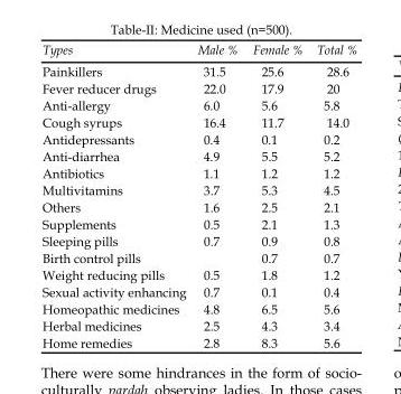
<table><thead><tr><td>Types</td><td>Male %</td><td>Female %</td><td>Total %</td></tr></thead><tbody><tr><td>Painkillers</td><td>31.5</td><td>25.6</td><td>28.6</td></tr><tr><td>Fever reducer drugs</td><td>22.0</td><td>17.9</td><td>20</td></tr><tr><td>Anti-allergy</td><td>6.0</td><td>5.6</td><td>5.8</td></tr><tr><td>Cough syrups</td><td>16.4</td><td>11.7</td><td>14.0</td></tr><tr><td>Antidepressants</td><td>0.4</td><td>0.1</td><td>0.2</td></tr><tr><td>Anti-diarrhea</td><td>4.9</td><td>5.5</td><td>5.2</td></tr><tr><td>Antibiotics</td><td>1.1</td><td>1.2</td><td>1.2</td></tr><tr><td>Multivitamins</td><td>3.7</td><td>5.3</td><td>4.5</td></tr><tr><td>Others</td><td>1.6</td><td>2.5</td><td>2.1</td></tr><tr><td>Supplements</td><td>0.5</td><td>2.1</td><td>1.3</td></tr><tr><td>Sleeping pills</td><td>0.7</td><td>0.9</td><td>0.8</td></tr><tr><td>Birth control pills</td><td></td><td>0.7</td><td>0.7</td></tr><tr><td>Weight reducing pills</td><td>0.5</td><td>1.8</td><td>1.2</td></tr><tr><td>Sexual activity enhancing</td><td>0.7</td><td>0.1</td><td>0.4</td></tr><tr><td>Homeopathic medicines</td><td>4.8</td><td>6.5</td><td>5.6</td></tr><tr><td>Herbal medicines</td><td>2.5</td><td>4.3</td><td>3.4</td></tr><tr><td>Home remedies</td><td>2.8</td><td>8.3</td><td>5.6</td></tr></tbody></table>